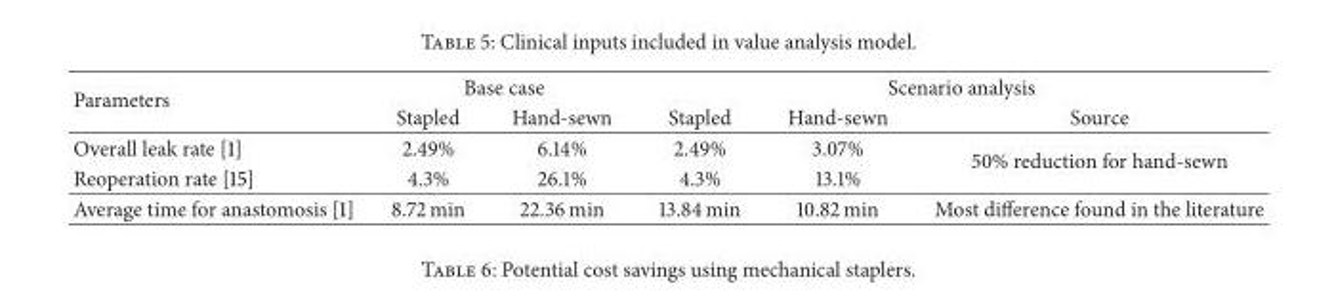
<table><thead><tr><td rowspan="2">Parameters</td><td colspan="2">Base case</td><td colspan="3">Scenario analysis</td></tr><tr><td>Stapled</td><td>Hand-sewn</td><td>Stapled</td><td>Hand-sewn</td><td>Source</td></tr></thead><tbody><tr><td>Overall leak rate [1]</td><td>2.49%</td><td>6.14%</td><td>2.49%</td><td>3.07%</td><td rowspan="2">50% reduction for hand-sewn</td></tr><tr><td>Reoperation rate [15]</td><td>4.3%</td><td>26.1%</td><td>4.3%</td><td>13.1%</td></tr><tr><td>Average time for anastomosis [1]</td><td>8.72 min</td><td>22.36 min</td><td>13.84 min</td><td>10.82 min</td><td>Most difference found in the literature</td></tr></tbody></table>